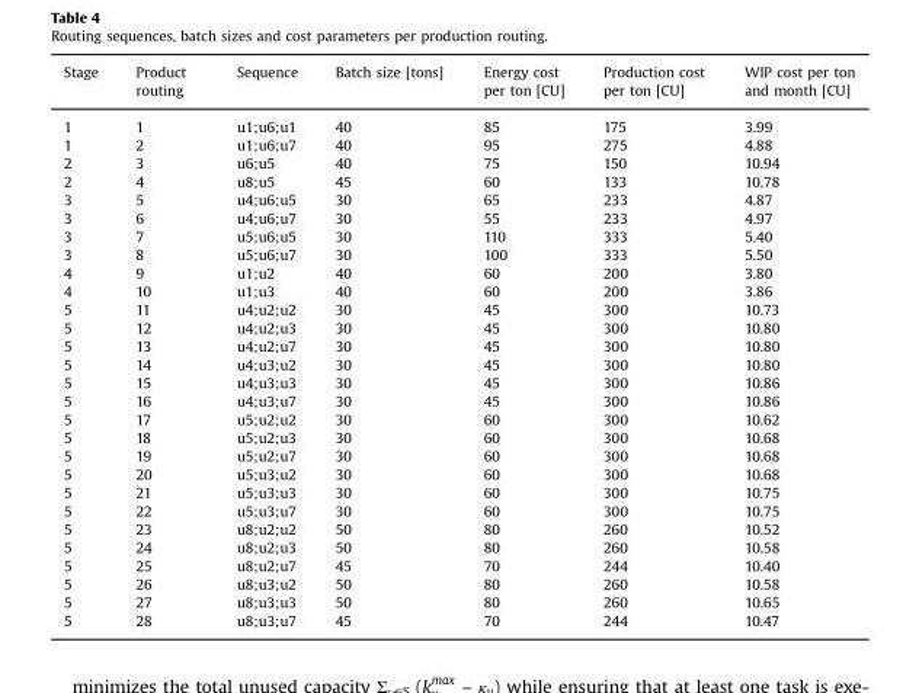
<table><tbody><tr><td>Stage</td><td>Product routing</td><td>Sequence</td><td>Batch size [tons]</td><td>Energy cost per ton [CU]</td><td>Production cost per ton [CU]</td><td>WIP cost per ton and month [CU]</td></tr><tr><td>1</td><td>1</td><td>u1;u6;u1</td><td>40</td><td>85</td><td>175</td><td>3.99</td></tr><tr><td>1</td><td>2</td><td>u1;u6;u7</td><td>40</td><td>95</td><td>275</td><td>4.88</td></tr><tr><td>2</td><td>3</td><td>u6;u5</td><td>40</td><td>75</td><td>150</td><td>10.94</td></tr><tr><td>2</td><td>4</td><td>u8;u5</td><td>45</td><td>60</td><td>133</td><td>10.78</td></tr><tr><td>3</td><td>5</td><td>u4;u6;u5</td><td>30</td><td>65</td><td>233</td><td>4.87</td></tr><tr><td>3</td><td>6</td><td>u4;u6;u7</td><td>30</td><td>55</td><td>233</td><td>4.97</td></tr><tr><td>3</td><td>7</td><td>u5;u6;u5</td><td>30</td><td>110</td><td>333</td><td>5.40</td></tr><tr><td>3</td><td>8</td><td>u5;u6;u7</td><td>30</td><td>100</td><td>333</td><td>5.50</td></tr><tr><td>4</td><td>9</td><td>u1;u2</td><td>40</td><td>60</td><td>200</td><td>3.80</td></tr><tr><td>4</td><td>10</td><td>u1;u3</td><td>40</td><td>60</td><td>200</td><td>3.86</td></tr><tr><td>5</td><td>11</td><td>u4;u2;u2</td><td>30</td><td>45</td><td>300</td><td>10.73</td></tr><tr><td>5</td><td>12</td><td>u4;u2;u3</td><td>30</td><td>45</td><td>300</td><td>10.80</td></tr><tr><td>5</td><td>13</td><td>u4;u2;u7</td><td>30</td><td>45</td><td>300</td><td>10.80</td></tr><tr><td>5</td><td>14</td><td>u4;u3;u2</td><td>30</td><td>45</td><td>300</td><td>10.80</td></tr><tr><td>5</td><td>15</td><td>u4;u3;u3</td><td>30</td><td>45</td><td>300</td><td>10.86</td></tr><tr><td>5</td><td>16</td><td>u4;u3;u7</td><td>30</td><td>45</td><td>300</td><td>10.86</td></tr><tr><td>5</td><td>17</td><td>u5;u2;u2</td><td>30</td><td>60</td><td>300</td><td>10.62</td></tr><tr><td>5</td><td>18</td><td>u5;u2;u3</td><td>30</td><td>60</td><td>300</td><td>10.68</td></tr><tr><td>5</td><td>19</td><td>u5;u2;u7</td><td>30</td><td>60</td><td>300</td><td>10.68</td></tr><tr><td>5</td><td>20</td><td>u5;u3;u2</td><td>30</td><td>60</td><td>300</td><td>10.68</td></tr><tr><td>5</td><td>21</td><td>u5;u3;u3</td><td>30</td><td>60</td><td>300</td><td>10.75</td></tr><tr><td>5</td><td>22</td><td>u5;u3;u7</td><td>30</td><td>60</td><td>300</td><td>10.75</td></tr><tr><td>5</td><td>23</td><td>u8;u2;u2</td><td>50</td><td>80</td><td>260</td><td>10.52</td></tr><tr><td>5</td><td>24</td><td>u8;u2;u3</td><td>50</td><td>80</td><td>260</td><td>10.58</td></tr><tr><td>5</td><td>25</td><td>u8;u2;u7</td><td>45</td><td>70</td><td>244</td><td>10.40</td></tr><tr><td>5</td><td>26</td><td>u8;u3;u2</td><td>50</td><td>80</td><td>260</td><td>10.58</td></tr><tr><td>5</td><td>27</td><td>u8;u3;u3</td><td>50</td><td>80</td><td>260</td><td>10.65</td></tr><tr><td>5</td><td>28</td><td>u8;u3;u7</td><td>45</td><td>70</td><td>244</td><td>10.47</td></tr></tbody></table>